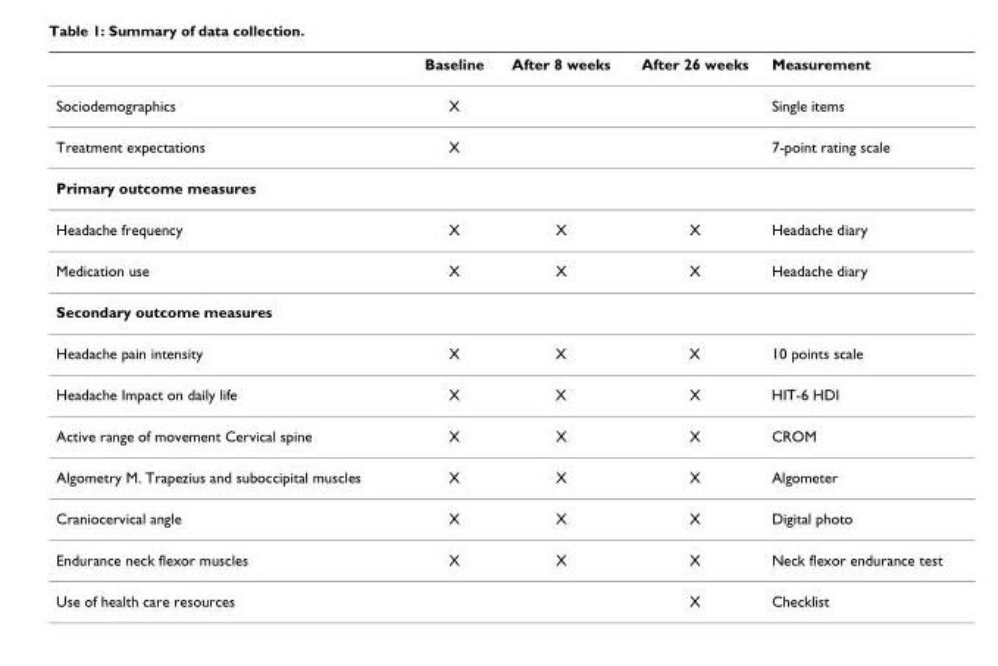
<table><thead><tr><td></td><td>Baseline</td><td>After 8 weeks</td><td>After 26 weeks</td><td>Measurement</td></tr></thead><tbody><tr><td>Sociodemographics</td><td>X</td><td></td><td></td><td>Single items</td></tr><tr><td>Treatment expectations</td><td>X</td><td></td><td></td><td>7-point rating scale</td></tr><tr><td colspan="5">Primary outcome measures</td></tr><tr><td>Headache frequency</td><td>X</td><td>X</td><td>X</td><td>Headache diary</td></tr><tr><td>Medication use</td><td>X</td><td>X</td><td>X</td><td>Headache diary</td></tr><tr><td colspan="5">Secondary outcome measures</td></tr><tr><td>Headache pain intensity</td><td>X</td><td>X</td><td>X</td><td>10 points scale</td></tr><tr><td>Headache Impact on daily life</td><td>X</td><td>X</td><td>X</td><td>HIT-6 HDI</td></tr><tr><td>Active range of movement Cervical spine</td><td>X</td><td>X</td><td>X</td><td>CROM</td></tr><tr><td>Algometry M. Trapezius and suboccipital muscles</td><td>X</td><td>X</td><td>X</td><td>Algometer</td></tr><tr><td>Craniocervical angle</td><td>X</td><td>X</td><td>X</td><td>Digital photo</td></tr><tr><td>Endurance neck flexor muscles</td><td>X</td><td>X</td><td>X</td><td>Neck flexor endurance test</td></tr><tr><td>Use of health care resources</td><td></td><td></td><td>X</td><td>Checklist</td></tr></tbody></table>